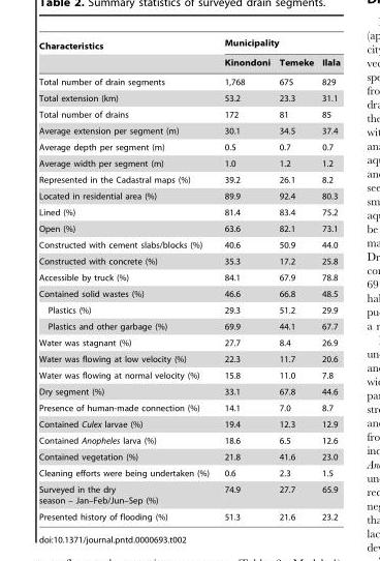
<table><thead><tr><td rowspan="2">Characteristics</td><td colspan="3">Municipality</td></tr><tr><td>Kinondoni</td><td>Temeke</td><td>Ilala</td></tr></thead><tbody><tr><td>Total number of drain segments</td><td>1,768</td><td>675</td><td>829</td></tr><tr><td>Total extension (km)</td><td>53.2</td><td>23.3</td><td>31.1</td></tr><tr><td>Total number of drains</td><td>172</td><td>81</td><td>85</td></tr><tr><td>Average extension per segment (m)</td><td>30.1</td><td>34.5</td><td>37.4</td></tr><tr><td>Average depth per segment (m)</td><td>0.5</td><td>0.7</td><td>0.7</td></tr><tr><td>Average width per segment (m)</td><td>1.0</td><td>1.2</td><td>1.2</td></tr><tr><td>Represented in the Cadastral maps (%)</td><td>39.2</td><td>26.1</td><td>8.2</td></tr><tr><td>Located in residential area (%)</td><td>89.9</td><td>92.4</td><td>80.3</td></tr><tr><td>Lined (%)</td><td>81.4</td><td>83.4</td><td>75.2</td></tr><tr><td>Open (%)</td><td>63.6</td><td>82.1</td><td>73.1</td></tr><tr><td>Constructed with cement slabs/blocks (%)</td><td>40.6</td><td>50.9</td><td>44.0</td></tr><tr><td>Constructed with concrete (%)</td><td>35.3</td><td>17.2</td><td>25.8</td></tr><tr><td>Accessible by truck (%)</td><td>84.1</td><td>67.9</td><td>78.8</td></tr><tr><td>Contained solid wastes (%)</td><td>46.6</td><td>66.8</td><td>48.5</td></tr><tr><td>Plastics (%)</td><td>29.3</td><td>51.2</td><td>29.9</td></tr><tr><td>Plastics and other garbage (%)</td><td>69.9</td><td>44.1</td><td>67.7</td></tr><tr><td>Water was stagnant (%)</td><td>27.7</td><td>8.4</td><td>26.9</td></tr><tr><td>Water was flowing at low velocity (%)</td><td>22.3</td><td>11.7</td><td>20.6</td></tr><tr><td>Water was flowing at normal velocity (%)</td><td>15.8</td><td>11.0</td><td>7.8</td></tr><tr><td>Dry segment (%)</td><td>33.1</td><td>67.8</td><td>44.6</td></tr><tr><td>Presence of human-made connection (%)</td><td>14.1</td><td>7.0</td><td>8.7</td></tr><tr><td>Contained Culex larvae (%)</td><td>19.4</td><td>12.3</td><td>12.9</td></tr><tr><td>Contained Anopheles larva (%)</td><td>18.6</td><td>6.5</td><td>12.6</td></tr><tr><td>Contained vegetation (%)</td><td>21.8</td><td>41.6</td><td>23.0</td></tr><tr><td>Cleaning efforts were being undertaken (%)</td><td>0.6</td><td>2.3</td><td>1.5</td></tr><tr><td>Surveyed in the dry season – Jan–Feb/Jun–Sep (%)</td><td>74.9</td><td>27.7</td><td>65.9</td></tr><tr><td>Presented history of flooding (%)</td><td>51.3</td><td>21.6</td><td>23.2</td></tr></tbody></table>